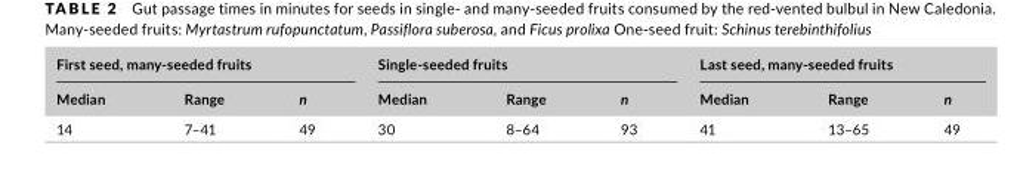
<table><thead><tr><td colspan="3">First seed, many- seeded fruits</td><td colspan="3">Single- seeded fruits</td><td colspan="3">Last seed, many- seeded fruits</td></tr><tr><td>Median</td><td>Range</td><td>n</td><td>Median</td><td>Range</td><td>n</td><td>Median</td><td>Range</td><td>n</td></tr></thead><tbody><tr><td>14</td><td>7–41</td><td>49</td><td>30</td><td>8–64</td><td>93</td><td>41</td><td>13–65</td><td>49</td></tr></tbody></table>